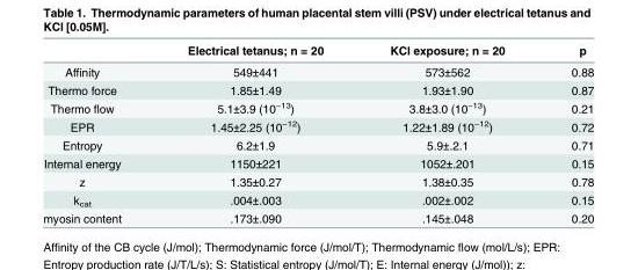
<table><thead><tr><td></td><td>Electrical tetanus; n = 20</td><td>KCl exposure; n = 20</td><td>p</td></tr></thead><tbody><tr><td>Affinity</td><td>549±441</td><td>573±562</td><td>0.88</td></tr><tr><td>Thermo force</td><td>1.85±1.49</td><td>1.93±1.90</td><td>0.87</td></tr><tr><td>Thermo flow</td><td>5.1±3.9 (10<sup>−13</sup>)</td><td>3.8±3.0 (10<sup>−13</sup>)</td><td>0.21</td></tr><tr><td>EPR</td><td>1.45±2.25 (10<sup>−12</sup>)</td><td>1.22±1.89 (10<sup>−12</sup>)</td><td>0.72</td></tr><tr><td>Entropy</td><td>6.2±1.9</td><td>5.9±.2.1</td><td>0.71</td></tr><tr><td>Internal energy</td><td>1150±221</td><td>1052±.201</td><td>0.15</td></tr><tr><td>z</td><td>1.35±0.27</td><td>1.38±0.35</td><td>0.78</td></tr><tr><td>k<sub>cat</sub></td><td>.004±.003</td><td>.002±.002</td><td>0.15</td></tr><tr><td>myosin content</td><td>.173±.090</td><td>.145±.048</td><td>0.20</td></tr></tbody></table>